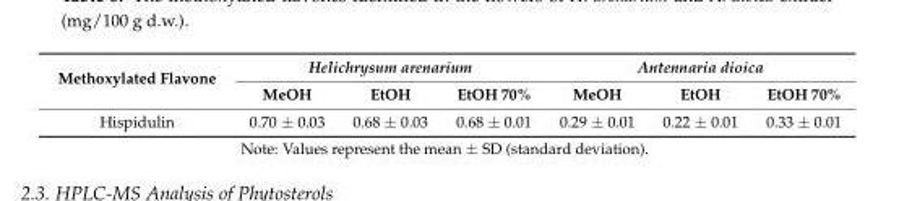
<table><thead><tr><td rowspan="2">Methoxylated Flavone</td><td colspan="3">Helichrysum arenarium</td><td colspan="3">Antennaria dioica</td></tr><tr><td>MeOH</td><td>EtOH</td><td>EtOH 70%</td><td>MeOH</td><td>EtOH</td><td>EtOH 70%</td></tr></thead><tbody><tr><td>Hispidulin</td><td>0.70 ± 0.03</td><td>0.68 ± 0.03</td><td>0.68 ± 0.01</td><td>0.29 ± 0.01</td><td>0.22 ± 0.01</td><td>0.33 ± 0.01</td></tr></tbody></table>